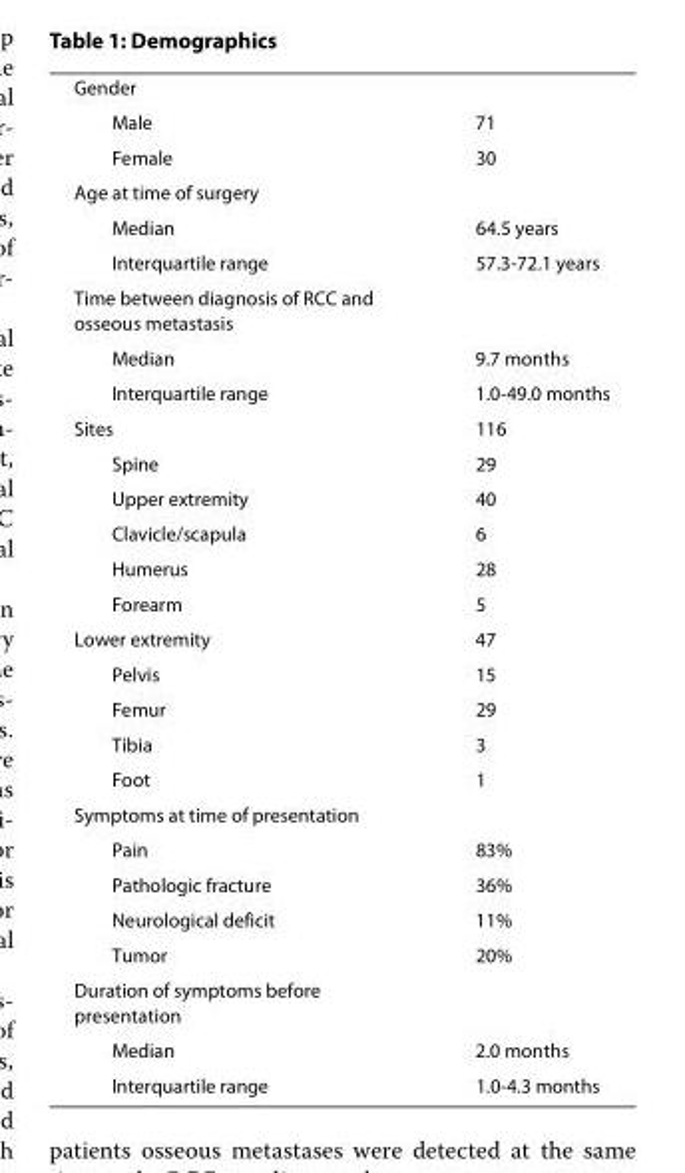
<table><tbody><tr><td colspan="2">Gender</td></tr><tr><td>Male</td><td>71</td></tr><tr><td>Female</td><td>30</td></tr><tr><td colspan="2">Age at time of surgery</td></tr><tr><td>Median</td><td>64.5 years</td></tr><tr><td>Interquartile range</td><td>57.3-72.1 years</td></tr><tr><td colspan="2">Time between diagnosis of RCC and osseous metastasis</td></tr><tr><td>Median</td><td>9.7 months</td></tr><tr><td>Interquartile range</td><td>1.0-49.0 months</td></tr><tr><td>Sites</td><td>116</td></tr><tr><td>Spine</td><td>29</td></tr><tr><td>Upper extremity</td><td>40</td></tr><tr><td>Clavicle/scapula</td><td>6</td></tr><tr><td>Humerus</td><td>28</td></tr><tr><td>Forearm</td><td>5</td></tr><tr><td>Lower extremity</td><td>47</td></tr><tr><td>Pelvis</td><td>15</td></tr><tr><td>Femur</td><td>29</td></tr><tr><td>Tibia</td><td>3</td></tr><tr><td>Foot</td><td>1</td></tr><tr><td colspan="2">Symptoms at time of presentation</td></tr><tr><td>Pain</td><td>83%</td></tr><tr><td>Pathologic fracture</td><td>36%</td></tr><tr><td>Neurological deficit</td><td>11%</td></tr><tr><td>Tumor</td><td>20%</td></tr><tr><td colspan="2">Duration of symptoms before presentation</td></tr><tr><td>Median</td><td>2.0 months</td></tr><tr><td>Interquartile range</td><td>1.0-4.3 months</td></tr></tbody></table>